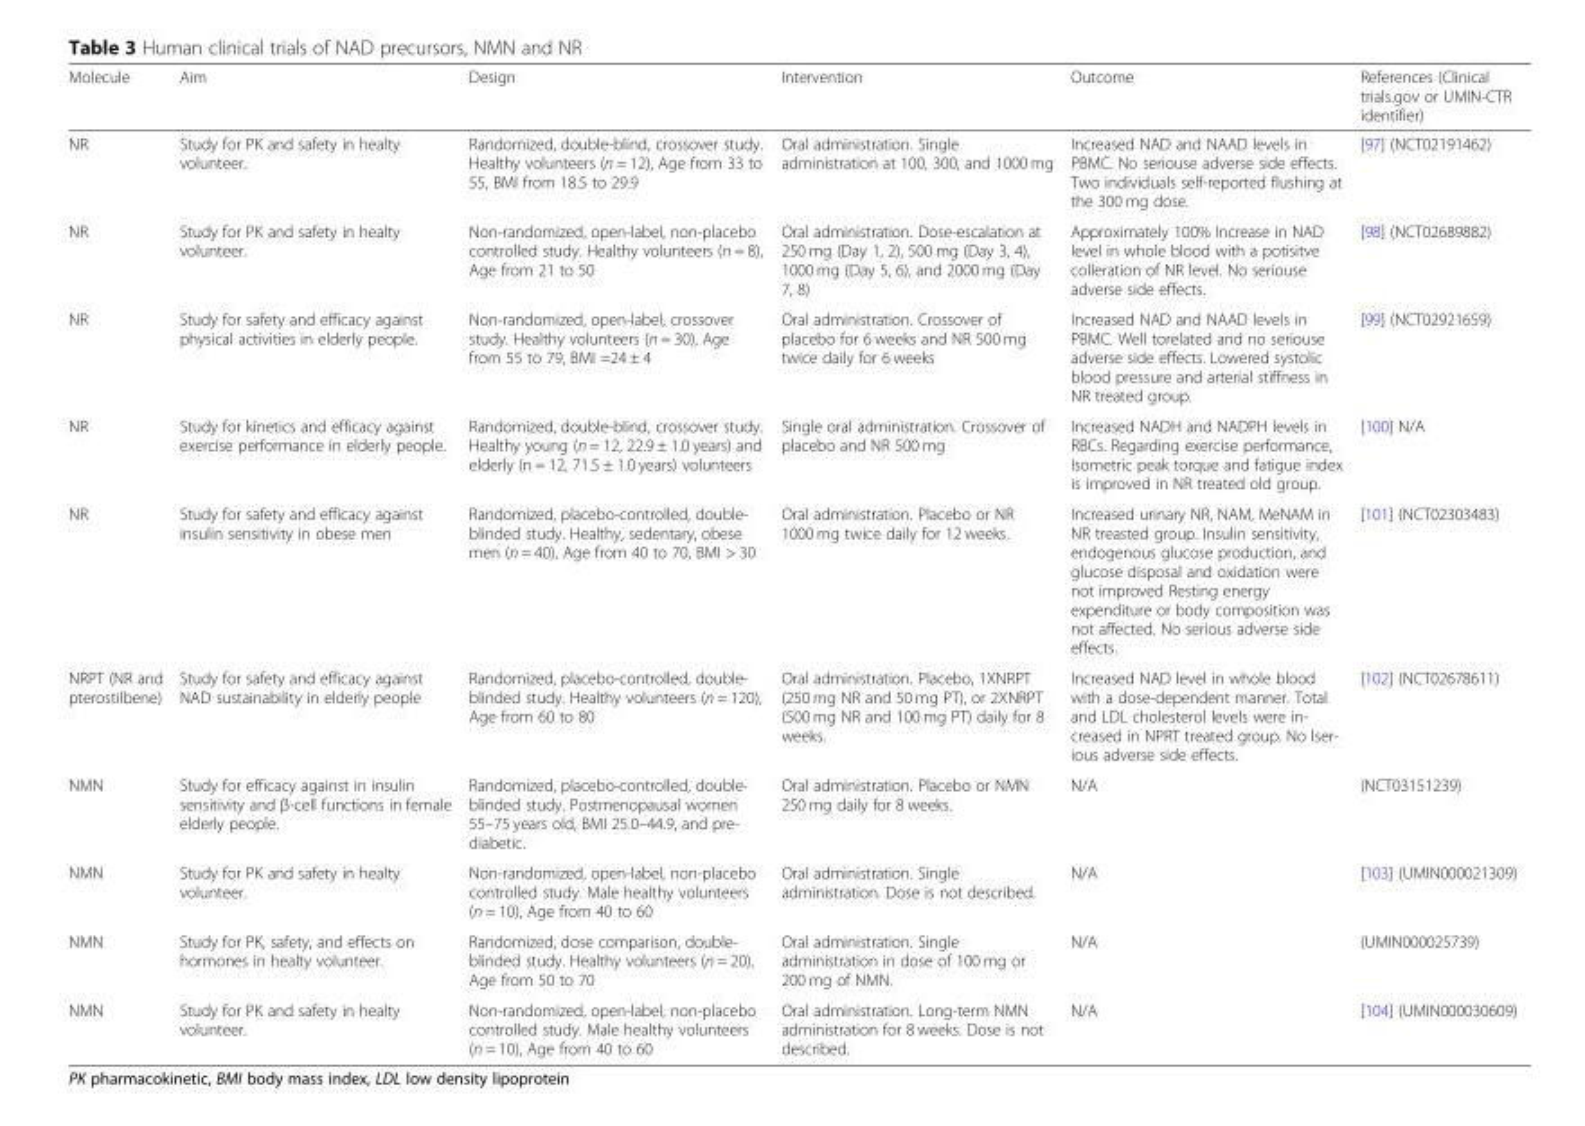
<table><thead><tr><td>Molecule</td><td>Aim</td><td>Design</td><td>Intervention</td><td>Outcome</td><td>References (Clinical trials.gov or UMIN-CTR identifier)</td></tr></thead><tbody><tr><td>NR</td><td>Study for PK and safety in healty volunteer.</td><td>Randomized, double-blind, crossover study. Healthy volunteers (n = 12), Age from 33 to 55, BMI from 18.5 to 29.9</td><td>Oral administration. Single administration at 100, 300, and 1000 mg</td><td>Increased NAD and NAAD levels in PBMC. No seriouse adverse side effects. Two individuals self-reported flushing at the 300 mg dose.</td><td>[97] (NCT02191462)</td></tr><tr><td>NR</td><td>Study for PK and safety in healty volunteer.</td><td>Non-randomized, open-label, non-placebo controlled study. Healthy volunteers (n = 8), Age from 21 to 50</td><td>Oral administration. Dose-escalation at 250 mg (Day 1, 2), 500 mg (Day 3, 4), 1000 mg (Day 5, 6), and 2000 mg (Day 7, 8)</td><td>Approximately 100% Increase in NAD level in whole blood with a potisitve colleration of NR level. No seriouse adverse side effects.</td><td>[98] (NCT02689882)</td></tr><tr><td>NR</td><td>Study for safety and efficacy against physical activities in elderly people.</td><td>Non-randomized, open-label, crossover study. Healthy volunteers (n = 30), Age from 55 to 79, BMI =24 ± 4</td><td>Oral administration. Crossover of placebo for 6 weeks and NR 500 mg twice daily for 6 weeks</td><td>Increased NAD and NAAD levels in PBMC. Well torelated and no seriouse adverse side effects. Lowered systolic blood pressure and arterial stiffness in NR treated group.</td><td>[99] (NCT02921659)</td></tr><tr><td>NR</td><td>Study for kinetics and efficacy against exercise performance in elderly people.</td><td>Randomized, double-blind, crossover study. Healthy young (n = 12, 22.9 ± 1.0 years) and elderly (n = 12, 71.5 ± 1.0 years) volunteers</td><td>Single oral administration. Crossover of placebo and NR 500 mg</td><td>Increased NADH and NADPH levels in RBCs. Regarding exercise performance, Isometric peak torque and fatigue index is improved in NR treated old group.</td><td>[100] N/A</td></tr><tr><td>NR</td><td>Study for safety and efficacy against insulin sensitivity in obese men</td><td>Randomized, placebo-controlled, double- blinded study. Healthy, sedentary, obese men (n = 40), Age from 40 to 70, BMI &gt; 30</td><td>Oral administration. Placebo or NR 1000 mg twice daily for 12 weeks.</td><td>Increased urinary NR, NAM, MeNAM in NR treasted group. Insulin sensitivity, endogenous glucose production, and glucose disposal and oxidation were not improved Resting energy expenditure or body composition was not affected. No serious adverse side effects.</td><td>[101] (NCT02303483)</td></tr><tr><td>NRPT (NR and pterostilbene)</td><td>Study for safety and efficacy against NAD sustainability in elderly people</td><td>Randomized, placebo-controlled, double- blinded study. Healthy volunteers (n = 120), Age from 60 to 80</td><td>Oral administration. Placebo, 1XNRPT (250 mg NR and 50 mg PT), or 2XNRPT (500 mg NR and 100 mg PT) daily for 8 weeks.</td><td>Increased NAD level in whole blood with a dose-dependent manner. Total and LDL cholesterol levels were in- creased in NPRT treated group. No lser- ious adverse side effects.</td><td>[102] (NCT02678611)</td></tr><tr><td>NMN</td><td>Study for efficacy against in insulin sensitivity and β-cell functions in female elderly people.</td><td>Randomized, placebo-controlled, double- blinded study. Postmenopausal women 55–75 years old, BMI 25.0–44.9, and pre- diabetic.</td><td>Oral administration. Placebo or NMN 250 mg daily for 8 weeks.</td><td>N/A</td><td>(NCT03151239)</td></tr><tr><td>NMN</td><td>Study for PK and safety in healty volunteer.</td><td>Non-randomized, open-label, non-placebo controlled study. Male healthy volunteers (n = 10), Age from 40 to 60</td><td>Oral administration. Single administration. Dose is not described.</td><td>N/A</td><td>[103] (UMIN000021309)</td></tr><tr><td>NMN</td><td>Study for PK, safety, and effects on hormones in healty volunteer.</td><td>Randomized, dose comparison, double- blinded study. Healthy volunteers (n = 20), Age from 50 to 70</td><td>Oral administration. Single administration in dose of 100 mg or 200 mg of NMN.</td><td>N/A</td><td>(UMIN000025739)</td></tr><tr><td>NMN</td><td>Study for PK and safety in healty volunteer.</td><td>Non-randomized, open-label, non-placebo controlled study. Male healthy volunteers (n = 10), Age from 40 to 60</td><td>Oral administration. Long-term NMN administration for 8 weeks. Dose is not described.</td><td>N/A</td><td>[104] (UMIN000030609)</td></tr></tbody></table>